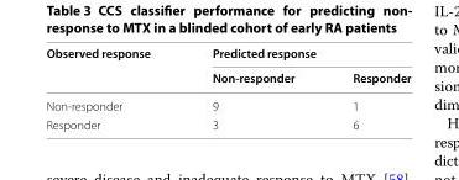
<table><thead><tr><td rowspan="2">Observed response</td><td colspan="2">Predicted response</td></tr><tr><td>Non-responder</td><td>Responder</td></tr></thead><tbody><tr><td>Non-responder</td><td>9</td><td>1</td></tr><tr><td>Responder</td><td>3</td><td>6</td></tr></tbody></table>